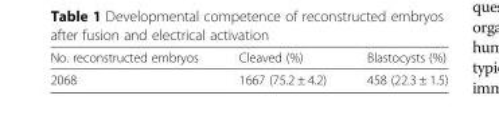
<table><thead><tr><td>No. reconstructed embryos</td><td>Cleaved (%)</td><td>Blastocysts (%)</td></tr></thead><tbody><tr><td>2068</td><td>1667 (75.2 ± 4.2)</td><td>458 (22.3 ± 1.5)</td></tr></tbody></table>